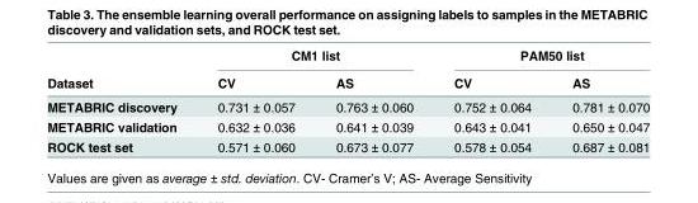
<table><thead><tr><td rowspan="2">Dataset</td><td colspan="2">CM1 list</td><td colspan="2">PAM50 list</td></tr><tr><td>CV</td><td>AS</td><td>CV</td><td>AS</td></tr></thead><tbody><tr><td>METABRIC discovery</td><td>0.731 ± 0.057</td><td>0.763 ± 0.060</td><td>0.752 ± 0.064</td><td>0.781 ± 0.070</td></tr><tr><td>METABRIC validation</td><td>0.632 ± 0.036</td><td>0.641 ± 0.039</td><td>0.643 ± 0.041</td><td>0.650 ± 0.047</td></tr><tr><td>ROCK test set</td><td>0.571 ± 0.060</td><td>0.673 ± 0.077</td><td>0.578 ± 0.054</td><td>0.687 ± 0.081</td></tr></tbody></table>